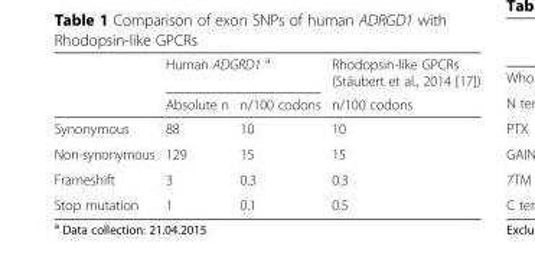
<table><thead><tr><td rowspan="2"></td><td colspan="2">Human ADGRD1 <sup>a</sup></td><td rowspan="2">Rhodopsin-like GPCRs (Stäubert et al., 2014 [17]) n/100 codons</td></tr><tr><td>Absolute n</td><td>n/100 codons</td></tr></thead><tbody><tr><td>Synonymous</td><td>88</td><td>10</td><td>10</td></tr><tr><td>Non-synonymous</td><td>129</td><td>15</td><td>15</td></tr><tr><td>Frameshift</td><td>3</td><td>0.3</td><td>0.3</td></tr><tr><td>Stop mutation</td><td>1</td><td>0.1</td><td>0.5</td></tr></tbody></table>